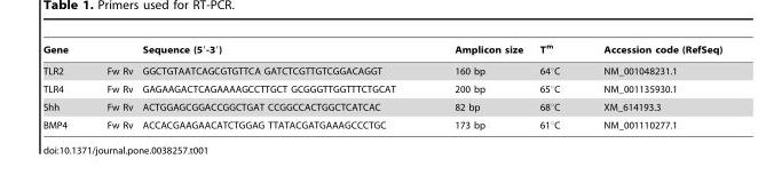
<table><thead><tr><td>Gene</td><td></td><td>Sequence (5′-3′)</td><td>Amplicon size</td><td>T<sup>m</sup></td><td>Accession code (RefSeq)</td></tr></thead><tbody><tr><td>TLR2</td><td>Fw Rv</td><td>GGCTGTAATCAGCGTGTTCA GATCTCGTTGTCGGACAGGT</td><td>160 bp</td><td>64°C</td><td>NM_001048231.1</td></tr><tr><td>TLR4</td><td>Fw Rv</td><td>GAGAAGACTCAGAAAAGCCTTGCT GCGGGTTGGTTTCTGCAT</td><td>200 bp</td><td>65°C</td><td>NM_001135930.1</td></tr><tr><td>Shh</td><td>Fw Rv</td><td>ACTGGAGCGGACCGGCTGAT CCGGCCACTGGCTCATCAC</td><td>82 bp</td><td>68°C</td><td>XM_614193.3</td></tr><tr><td>BMP4</td><td>Fw Rv</td><td>ACCACGAAGAACATCTGGAG TTATACGATGAAAGCCCTGC</td><td>173 bp</td><td>61°C</td><td>NM_001110277.1</td></tr></tbody></table>